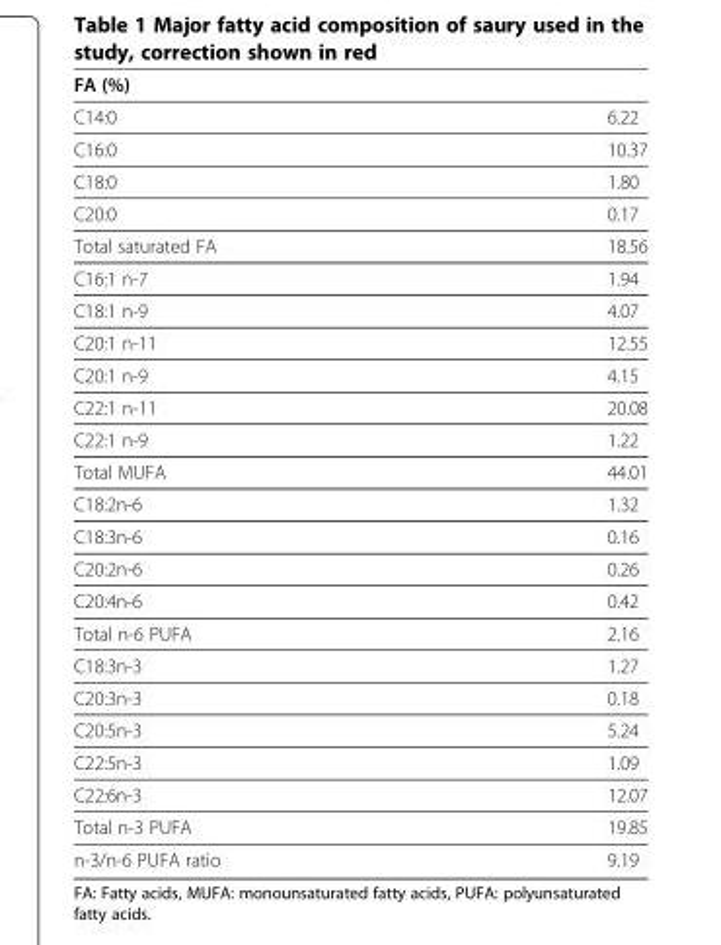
<table><thead><tr><td>FA (%)</td><td></td></tr></thead><tbody><tr><td>C14:0</td><td>6.22</td></tr><tr><td>C16:0</td><td>10.37</td></tr><tr><td>C18:0</td><td>1.80</td></tr><tr><td>C20:0</td><td>0.17</td></tr><tr><td>Total saturated FA</td><td>18.56</td></tr><tr><td>C16:1 n-7</td><td>1.94</td></tr><tr><td>C18:1 n-9</td><td>4.07</td></tr><tr><td>C20:1 n-11</td><td>12.55</td></tr><tr><td>C20:1 n-9</td><td>4.15</td></tr><tr><td>C22:1 n-11</td><td>20.08</td></tr><tr><td>C22:1 n-9</td><td>1.22</td></tr><tr><td>Total MUFA</td><td>44.01</td></tr><tr><td>C18:2n-6</td><td>1.32</td></tr><tr><td>C18:3n-6</td><td>0.16</td></tr><tr><td>C20:2n-6</td><td>0.26</td></tr><tr><td>C20:4n-6</td><td>0.42</td></tr><tr><td>Total n-6 PUFA</td><td>2.16</td></tr><tr><td>C18:3n-3</td><td>1.27</td></tr><tr><td>C20:3n-3</td><td>0.18</td></tr><tr><td>C20:5n-3</td><td>5.24</td></tr><tr><td>C22:5n-3</td><td>1.09</td></tr><tr><td>C22:6n-3</td><td>12.07</td></tr><tr><td>Total n-3 PUFA</td><td>19.85</td></tr><tr><td>n-3/n-6 PUFA ratio</td><td>9.19</td></tr></tbody></table>